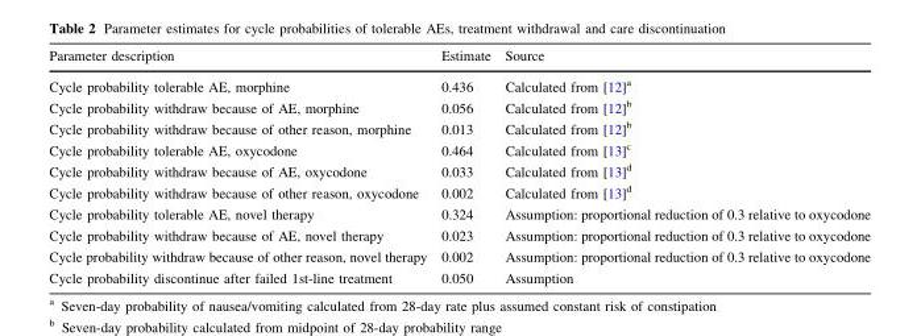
<table><thead><tr><td>Parameter description</td><td>Estimate</td><td>Source</td></tr></thead><tbody><tr><td>Cycle probability tolerable AE, morphine</td><td>0.436</td><td>Calculated from [12]<sup>a</sup></td></tr><tr><td>Cycle probability withdraw because of AE, morphine</td><td>0.056</td><td>Calculated from [12]<sup>b</sup></td></tr><tr><td>Cycle probability withdraw because of other reason, morphine</td><td>0.013</td><td>Calculated from [12]<sup>b</sup></td></tr><tr><td>Cycle probability tolerable AE, oxycodone</td><td>0.464</td><td>Calculated from [13]<sup>c</sup></td></tr><tr><td>Cycle probability withdraw because of AE, oxycodone</td><td>0.033</td><td>Calculated from [13]<sup>d</sup></td></tr><tr><td>Cycle probability withdraw because of other reason, oxycodone</td><td>0.002</td><td>Calculated from [13]<sup>d</sup></td></tr><tr><td>Cycle probability tolerable AE, novel therapy</td><td>0.324</td><td>Assumption: proportional reduction of 0.3 relative to oxycodone</td></tr><tr><td>Cycle probability withdraw because of AE, novel therapy</td><td>0.023</td><td>Assumption: proportional reduction of 0.3 relative to oxycodone</td></tr><tr><td>Cycle probability withdraw because of other reason, novel therapy</td><td>0.002</td><td>Assumption: proportional reduction of 0.3 relative to oxycodone</td></tr><tr><td>Cycle probability discontinue after failed 1st-line treatment</td><td>0.050</td><td>Assumption</td></tr></tbody></table>